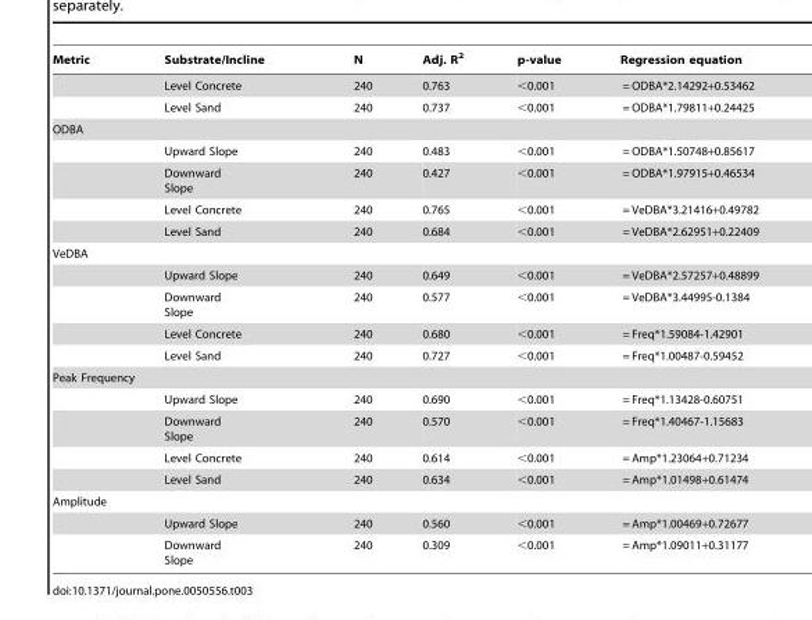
<table><thead><tr><td>Metric</td><td>Substrate/Incline</td><td>N</td><td>Adj. R<sup>2</sup></td><td>p-value</td><td>Regression equation</td></tr></thead><tbody><tr><td></td><td>Level Concrete</td><td>240</td><td>0.763</td><td>&lt;0.001</td><td>= ODBA*2.14292+0.53462</td></tr><tr><td></td><td>Level Sand</td><td>240</td><td>0.737</td><td>&lt;0.001</td><td>= ODBA*1.79811+0.24425</td></tr><tr><td colspan="6">ODBA</td></tr><tr><td></td><td>Upward Slope</td><td>240</td><td>0.483</td><td>&lt;0.001</td><td>= ODBA*1.50748+0.85617</td></tr><tr><td></td><td>Downward Slope</td><td>240</td><td>0.427</td><td>&lt;0.001</td><td>= ODBA*1.97915+0.46534</td></tr><tr><td></td><td>Level Concrete</td><td>240</td><td>0.765</td><td>&lt;0.001</td><td>= VeDBA*3.21416+0.49782</td></tr><tr><td></td><td>Level Sand</td><td>240</td><td>0.684</td><td>&lt;0.001</td><td>= VeDBA*2.62951+0.22409</td></tr><tr><td colspan="6">VeDBA</td></tr><tr><td></td><td>Upward Slope</td><td>240</td><td>0.649</td><td>&lt;0.001</td><td>= VeDBA*2.57257+0.48899</td></tr><tr><td></td><td>Downward Slope</td><td>240</td><td>0.577</td><td>&lt;0.001</td><td>= VeDBA*3.44995-0.1384</td></tr><tr><td></td><td>Level Concrete</td><td>240</td><td>0.680</td><td>&lt;0.001</td><td>= Freq*1.59084-1.42901</td></tr><tr><td></td><td>Level Sand</td><td>240</td><td>0.727</td><td>&lt;0.001</td><td>= Freq*1.00487-0.59452</td></tr><tr><td colspan="6">Peak Frequency</td></tr><tr><td></td><td>Upward Slope</td><td>240</td><td>0.690</td><td>&lt;0.001</td><td>= Freq*1.13428-0.60751</td></tr><tr><td></td><td>Downward Slope</td><td>240</td><td>0.570</td><td>&lt;0.001</td><td>= Freq*1.40467-1.15683</td></tr><tr><td></td><td>Level Concrete</td><td>240</td><td>0.614</td><td>&lt;0.001</td><td>= Amp*1.23064+0.71234</td></tr><tr><td></td><td>Level Sand</td><td>240</td><td>0.634</td><td>&lt;0.001</td><td>= Amp*1.01498+0.61474</td></tr><tr><td colspan="6">Amplitude</td></tr><tr><td></td><td>Upward Slope</td><td>240</td><td>0.560</td><td>&lt;0.001</td><td>= Amp*1.00469+0.72677</td></tr><tr><td></td><td>Downward Slope</td><td>240</td><td>0.309</td><td>&lt;0.001</td><td>= Amp*1.09011+0.31177</td></tr></tbody></table>